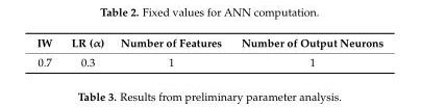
<table><thead><tr><td>IW</td><td>LR (α)</td><td>Number of Features</td><td>Number of Output Neurons</td></tr></thead><tbody><tr><td>0.7</td><td>0.3</td><td>1</td><td>1</td></tr></tbody></table>